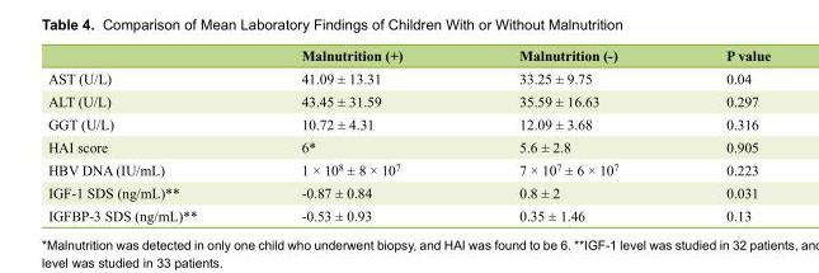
<table><thead><tr><td></td><td>Malnutrition (+)</td><td>Malnutrition (-)</td><td>P value</td></tr></thead><tbody><tr><td>AST (U/L)</td><td>41.09 ± 13.31</td><td>33.25 ± 9.75</td><td>0.04</td></tr><tr><td>ALT (U/L)</td><td>43.45 ± 31.59</td><td>35.59 ± 16.63</td><td>0.297</td></tr><tr><td>GGT (U/L)</td><td>10.72 ± 4.31</td><td>12.09 ± 3.68</td><td>0.316</td></tr><tr><td>HAI score</td><td>6*</td><td>5.6 ± 2.8</td><td>0.905</td></tr><tr><td>HBV DNA (IU/mL)</td><td>1 × 10<sup>8</sup> ± 8 × 10<sup>7</sup></td><td>7 × 10<sup>7</sup> ± 6 × 10<sup>7</sup></td><td>0.223</td></tr><tr><td>IGF-1 SDS (ng/mL)**</td><td>-0.87 ± 0.84</td><td>0.8 ± 2</td><td>0.031</td></tr><tr><td>IGFBP-3 SDS (ng/mL)**</td><td>-0.53 ± 0.93</td><td>0.35 ± 1.46</td><td>0.13</td></tr></tbody></table>